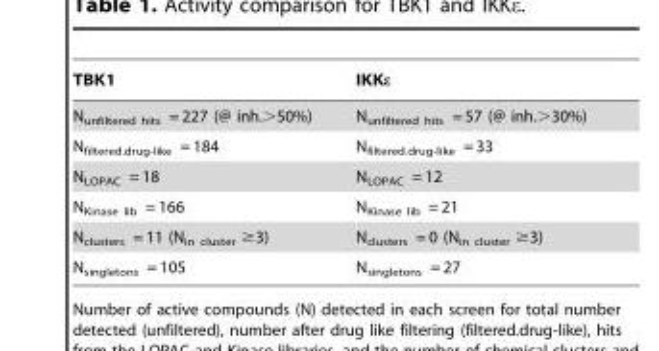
<table><thead><tr><td>TBK1</td><td>IKKε</td></tr></thead><tbody><tr><td>N<sub>unfiltered hits</sub> = 227 (@ inh.&gt;50%)</td><td>N<sub>unfiltered hits</sub> = 57 (@ inh.&gt;30%)</td></tr><tr><td>N<sub>filtered.drug-like</sub> = 184</td><td>N<sub>filtered.drug-like</sub> = 33</td></tr><tr><td>N<sub>LOPAC</sub> = 18</td><td>N<sub>LOPAC</sub> = 12</td></tr><tr><td>N<sub>Kinase lib</sub> = 166</td><td>N<sub>Kinase lib</sub> = 21</td></tr><tr><td>N<sub>clusters</sub> = 11 (N<sub>in cluster</sub> ≥3)</td><td>N<sub>clusters</sub> = 0 (N<sub>in cluster</sub> ≥3)</td></tr><tr><td>N<sub>singletons</sub> = 105</td><td>N<sub>singletons</sub> = 27</td></tr></tbody></table>